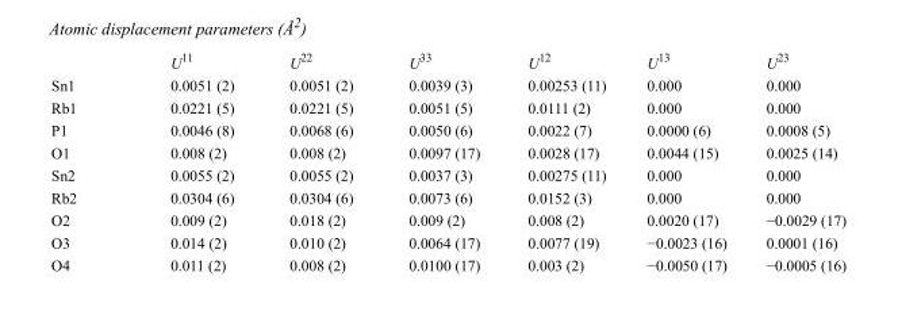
<table><thead><tr><td></td><td>U<sup>11</sup></td><td>U<sup>22</sup></td><td>U<sup>33</sup></td><td>U<sup>12</sup></td><td>U<sup>13</sup></td><td>U<sup>23</sup></td></tr></thead><tbody><tr><td>Sn1</td><td>0.0051 (2)</td><td>0.0051 (2)</td><td>0.0039 (3)</td><td>0.00253 (11)</td><td>0.000</td><td>0.000</td></tr><tr><td>Rb1</td><td>0.0221 (5)</td><td>0.0221 (5)</td><td>0.0051 (5)</td><td>0.0111 (2)</td><td>0.000</td><td>0.000</td></tr><tr><td>P1</td><td>0.0046 (8)</td><td>0.0068 (6)</td><td>0.0050 (6)</td><td>0.0022 (7)</td><td>0.0000 (6)</td><td>0.0008 (5)</td></tr><tr><td>O1</td><td>0.008 (2)</td><td>0.008 (2)</td><td>0.0097 (17)</td><td>0.0028 (17)</td><td>0.0044 (15)</td><td>0.0025 (14)</td></tr><tr><td>Sn2</td><td>0.0055 (2)</td><td>0.0055 (2)</td><td>0.0037 (3)</td><td>0.00275 (11)</td><td>0.000</td><td>0.000</td></tr><tr><td>Rb2</td><td>0.0304 (6)</td><td>0.0304 (6)</td><td>0.0073 (6)</td><td>0.0152 (3)</td><td>0.000</td><td>0.000</td></tr><tr><td>O2</td><td>0.009 (2)</td><td>0.018 (2)</td><td>0.009 (2)</td><td>0.008 (2)</td><td>0.0020 (17)</td><td>−0.0029 (17)</td></tr><tr><td>O3</td><td>0.014 (2)</td><td>0.010 (2)</td><td>0.0064 (17)</td><td>0.0077 (19)</td><td>−0.0023 (16)</td><td>0.0001 (16)</td></tr><tr><td>O4</td><td>0.011 (2)</td><td>0.008 (2)</td><td>0.0100 (17)</td><td>0.003 (2)</td><td>−0.0050 (17)</td><td>−0.0005 (16)</td></tr></tbody></table>